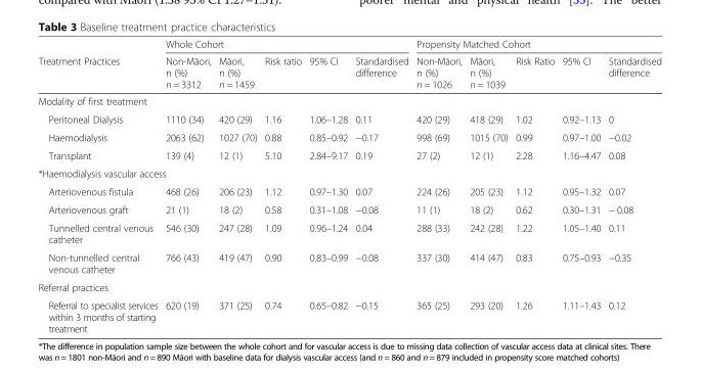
<table><thead><tr><td rowspan="2">Treatment Practices</td><td colspan="5">Whole Cohort</td><td colspan="5">Propensity Matched Cohort</td></tr><tr><td>Non-Māori, n (%) n = 3312</td><td>Māori, n (%) n = 1459</td><td>Risk ratio</td><td>95% CI</td><td>Standardised difference</td><td>Non-Māori, n (%) n = 1026</td><td>Māori, n (%) n = 1039</td><td>Risk Ratio</td><td>95% CI</td><td>Standardised difference</td></tr></thead><tbody><tr><td colspan="11">Modality of first treatment</td></tr><tr><td>Peritoneal Dialysis</td><td>1110 (34)</td><td>420 (29)</td><td>1.16</td><td>1.06–1.28</td><td>0.11</td><td>420 (29)</td><td>418 (29)</td><td>1.02</td><td>0.92–1.13</td><td>0</td></tr><tr><td>Haemodialysis</td><td>2063 (62)</td><td>1027 (70)</td><td>0.88</td><td>0.85–0.92</td><td>−0.17</td><td>998 (69)</td><td>1015 (70)</td><td>0.99</td><td>0.97–1.00</td><td>−0.02</td></tr><tr><td>Transplant</td><td>139 (4)</td><td>12 (1)</td><td>5.10</td><td>2.84–9.17</td><td>0.19</td><td>27 (2)</td><td>12 (1)</td><td>2.28</td><td>1.16–4.47</td><td>0.08</td></tr><tr><td colspan="11">*Haemodialysis vascular access</td></tr><tr><td>Arteriovenous fistula</td><td>468 (26)</td><td>206 (23)</td><td>1.12</td><td>0.97–1.30</td><td>0.07</td><td>224 (26)</td><td>205 (23)</td><td>1.12</td><td>0.95–1.32</td><td>0.07</td></tr><tr><td>Arteriovenous graft</td><td>21 (1)</td><td>18 (2)</td><td>0.58</td><td>0.31–1.08</td><td>−0.08</td><td>11 (1)</td><td>18 (2)</td><td>0.62</td><td>0.30–1.31</td><td>− 0.08</td></tr><tr><td>Tunnelled central venous catheter</td><td>546 (30)</td><td>247 (28)</td><td>1.09</td><td>0.96–1.24</td><td>0.04</td><td>288 (33)</td><td>242 (28)</td><td>1.22</td><td>1.05–1.40</td><td>0.11</td></tr><tr><td>Non-tunnelled central venous catheter</td><td>766 (43)</td><td>419 (47)</td><td>0.90</td><td>0.83–0.99</td><td>−0.08</td><td>337 (30)</td><td>414 (47)</td><td>0.83</td><td>0.75–0.93</td><td>−0.35</td></tr><tr><td colspan="11">Referral practices</td></tr><tr><td>Referral to specialist services within 3 months of starting treatment</td><td>620 (19)</td><td>371 (25)</td><td>0.74</td><td>0.65–0.82</td><td>−0.15</td><td>365 (25)</td><td>293 (20)</td><td>1.26</td><td>1.11–1.43</td><td>0.12</td></tr></tbody></table>